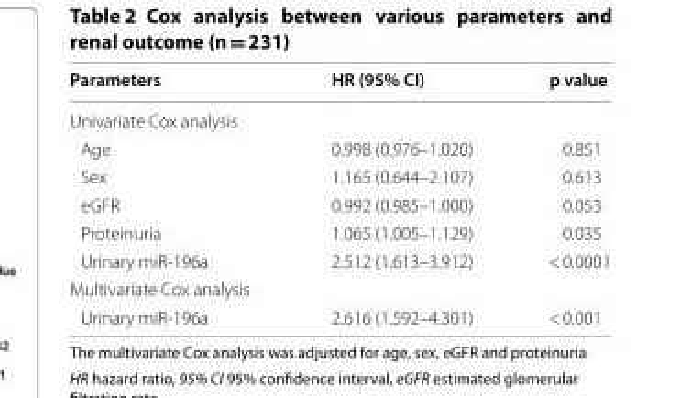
<table><thead><tr><td>Parameters</td><td>HR (95% CI)</td><td>p value</td></tr></thead><tbody><tr><td colspan="3">Univariate Cox analysis</td></tr><tr><td>Age</td><td>0.998 (0.976–1.020)</td><td>0.851</td></tr><tr><td>Sex</td><td>1.165 (0.644–2.107)</td><td>0.613</td></tr><tr><td>eGFR</td><td>0.992 (0.985–1.000)</td><td>0.053</td></tr><tr><td>Proteinuria</td><td>1.065 (1.005–1.129)</td><td>0.035</td></tr><tr><td>Urinary miR-196a</td><td>2.512 (1.613–3.912)</td><td>&lt; 0.0001</td></tr><tr><td colspan="3">Multivariate Cox analysis</td></tr><tr><td>Urinary miR-196a</td><td>2.616 (1.592–4.301)</td><td>&lt; 0.001</td></tr></tbody></table>